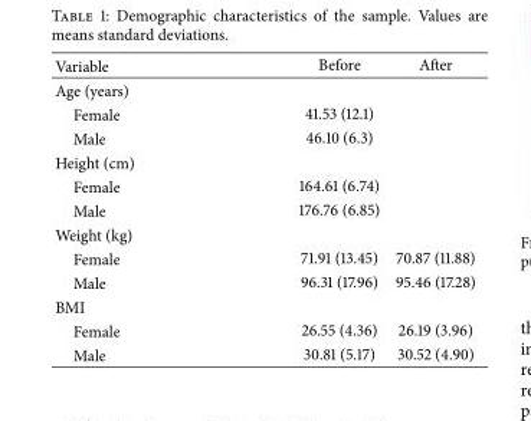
<table><thead><tr><td>Variable</td><td>Before</td><td>After</td></tr></thead><tbody><tr><td colspan="3">Age (years)</td></tr><tr><td>Female</td><td>41.53 (12.1)</td><td></td></tr><tr><td>Male</td><td>46.10 (6.3)</td><td></td></tr><tr><td colspan="3">Height (cm)</td></tr><tr><td>Female</td><td>164.61 (6.74)</td><td></td></tr><tr><td>Male</td><td>176.76 (6.85)</td><td></td></tr><tr><td colspan="3">Weight (kg)</td></tr><tr><td>Female</td><td>71.91 (13.45)</td><td>70.87 (11.88)</td></tr><tr><td>Male</td><td>96.31 (17.96)</td><td>95.46 (17.28)</td></tr><tr><td colspan="3">BMI</td></tr><tr><td>Female</td><td>26.55 (4.36)</td><td>26.19 (3.96)</td></tr><tr><td>Male</td><td>30.81 (5.17)</td><td>30.52 (4.90)</td></tr></tbody></table>